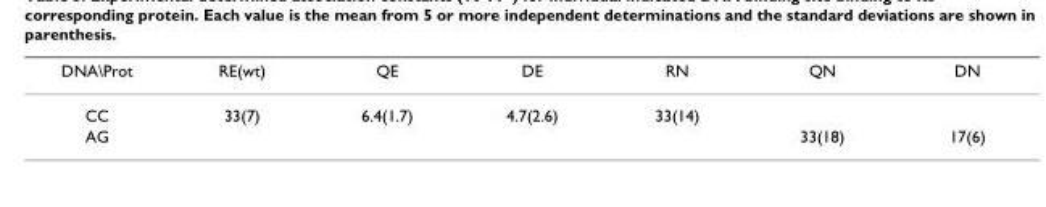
<table><thead><tr><td>DNA\Prot</td><td>RE(wt)</td><td>QE</td><td>DE</td><td>RN</td><td>QN</td><td>DN</td></tr></thead><tbody><tr><td>CC</td><td>33(7)</td><td>6.4(1.7)</td><td>4.7(2.6)</td><td>33(14)</td><td></td><td></td></tr><tr><td>AG</td><td></td><td></td><td></td><td></td><td>33(18)</td><td>17(6)</td></tr></tbody></table>